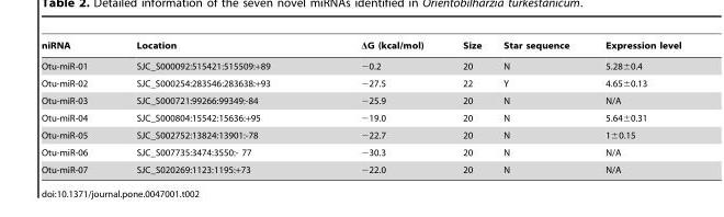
<table><thead><tr><td>niRNA</td><td>Location</td><td>ΔG (kcal/mol)</td><td>Size</td><td>Star sequence</td><td>Expression level</td></tr></thead><tbody><tr><td>Otu-miR-01</td><td>SJC_S000092:515421:515509:+89</td><td>−0.2</td><td>20</td><td>N</td><td>5.28±0.4</td></tr><tr><td>Otu-miR-02</td><td>SJC_S000254:283546:283638:+93</td><td>−27.5</td><td>22</td><td>Y</td><td>4.65±0.13</td></tr><tr><td>Otu-miR-03</td><td>SJC_S000721:99266:99349:-84</td><td>−25.9</td><td>20</td><td>N</td><td>N/A</td></tr><tr><td>Otu-miR-04</td><td>SJC_S000804:15542:15636:+95</td><td>−19.0</td><td>20</td><td>N</td><td>5.64±0.31</td></tr><tr><td>Otu-miR-05</td><td>SJC_S002752:13824:13901:-78</td><td>−22.7</td><td>20</td><td>N</td><td>1±0.15</td></tr><tr><td>Otu-miR-06</td><td>SJC_S007735:3474:3550:- 77</td><td>−30.3</td><td>20</td><td>N</td><td>N/A</td></tr><tr><td>Otu-miR-07</td><td>SJC_S020269:1123:1195:+73</td><td>−22.0</td><td>20</td><td>N</td><td>N/A</td></tr></tbody></table>